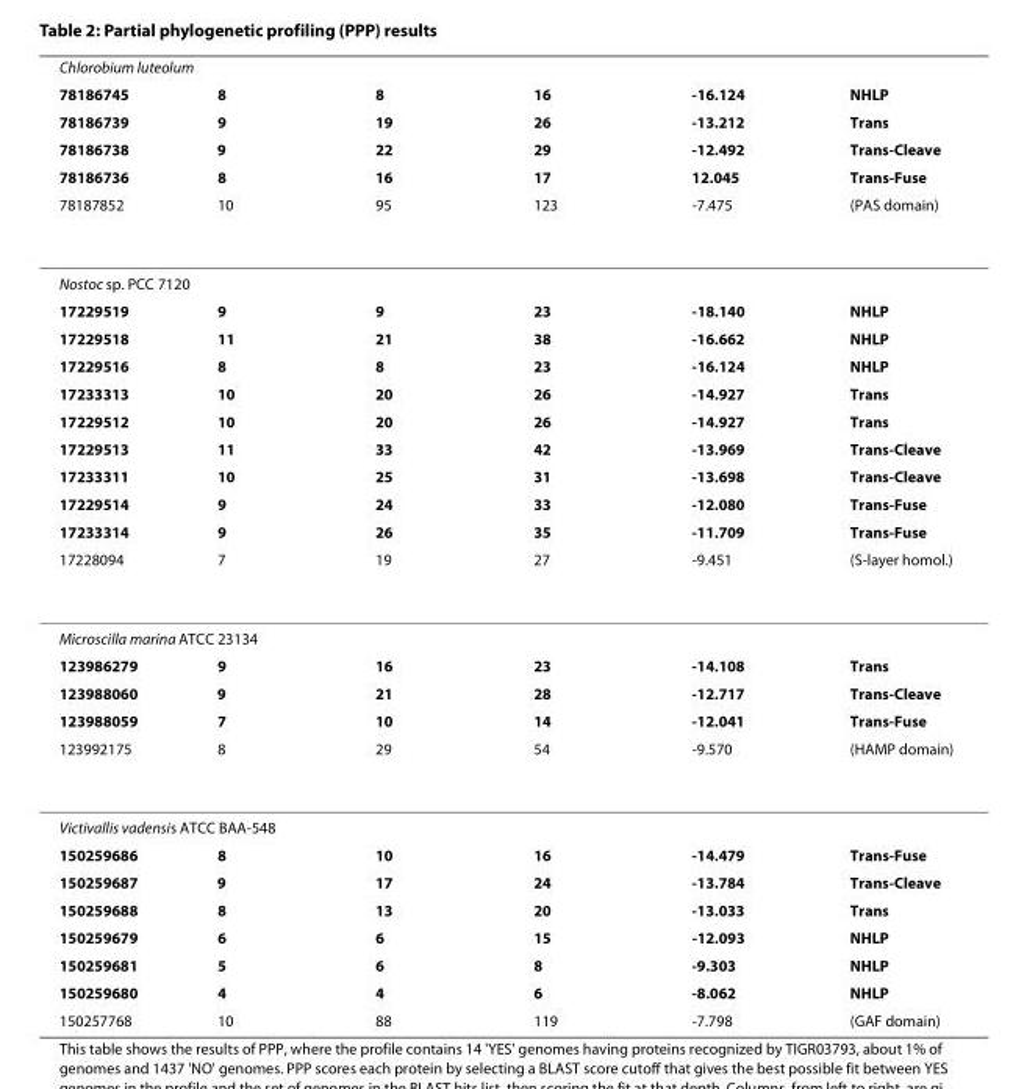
<table><thead><tr><td colspan="6">Chlorobium luteolum</td></tr><tr><td rowspan="5">78186745 78186739 78186738 78186736 78187852</td><td rowspan="5">8 9 9 8 10</td><td rowspan="5">8 19 22 16 95</td><td rowspan="5">16 26 29 17 123</td><td rowspan="5">-16.124 -13.212 -12.492 12.045 -7.475</td><td rowspan="5">NHLP Trans Trans-Cleave Trans-Fuse (PAS domain)</td></tr><tr></tr><tr></tr><tr></tr><tr></tr></thead><tbody><tr><td colspan="6">Nostoc sp. PCC 7120</td></tr><tr><td>17229519</td><td>9</td><td>9</td><td>23</td><td>-18.140</td><td>NHLP</td></tr><tr><td>17229518</td><td>11</td><td>21</td><td>38</td><td>-16.662</td><td>NHLP</td></tr><tr><td>17229516</td><td>8</td><td>8</td><td>23</td><td>-16.124</td><td>NHLP</td></tr><tr><td>17233313</td><td>10</td><td>20</td><td>26</td><td>-14.927</td><td>Trans</td></tr><tr><td>17229512</td><td>10</td><td>20</td><td>26</td><td>-14.927</td><td>Trans</td></tr><tr><td>17229513</td><td>11</td><td>33</td><td>42</td><td>-13.969</td><td>Trans-Cleave</td></tr><tr><td>17233311</td><td>10</td><td>25</td><td>31</td><td>-13.698</td><td>Trans-Cleave</td></tr><tr><td>17229514</td><td>9</td><td>24</td><td>33</td><td>-12.080</td><td>Trans-Fuse</td></tr><tr><td>17233314</td><td>9</td><td>26</td><td>35</td><td>-11.709</td><td>Trans-Fuse</td></tr><tr><td>17228094</td><td>7</td><td>19</td><td>27</td><td>-9.451</td><td>(S-layer homol.)</td></tr><tr><td colspan="6">Microscilla marina ATCC 23134</td></tr><tr><td>123986279</td><td>9</td><td>16</td><td>23</td><td>-14.108</td><td>Trans</td></tr><tr><td>123988060</td><td>9</td><td>21</td><td>28</td><td>-12.717</td><td>Trans-Cleave</td></tr><tr><td>123988059</td><td>7</td><td>10</td><td>14</td><td>-12.041</td><td>Trans-Fuse</td></tr><tr><td>123992175</td><td>8</td><td>29</td><td>54</td><td>-9.570</td><td>(HAMP domain)</td></tr><tr><td colspan="6">Victivallis vadensis ATCC BAA-548</td></tr><tr><td>150259686</td><td>8</td><td>10</td><td>16</td><td>-14.479</td><td>Trans-Fuse</td></tr><tr><td>150259687</td><td>9</td><td>17</td><td>24</td><td>-13.784</td><td>Trans-Cleave</td></tr><tr><td>150259688</td><td>8</td><td>13</td><td>20</td><td>-13.033</td><td>Trans</td></tr><tr><td>150259679</td><td>6</td><td>6</td><td>15</td><td>-12.093</td><td>NHLP</td></tr><tr><td>150259681</td><td>5</td><td>6</td><td>8</td><td>-9.303</td><td>NHLP</td></tr><tr><td>150259680</td><td>4</td><td>4</td><td>6</td><td>-8.062</td><td>NHLP</td></tr><tr><td>150257768</td><td>10</td><td>88</td><td>119</td><td>-7.798</td><td>(GAF domain)</td></tr></tbody></table>